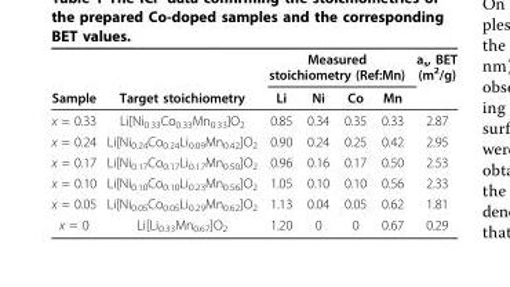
<table><thead><tr><td rowspan="2">Sample</td><td rowspan="2">Target stoichiometry</td><td colspan="4">Measured stoichiometry (Ref:Mn)</td><td rowspan="2">a<sub>s</sub>, BET (m<sup>2</sup>/g)</td></tr><tr><td>Li</td><td>Ni</td><td>Co</td><td>Mn</td></tr></thead><tbody><tr><td>x = 0.33</td><td>Li[Ni<sub>0.33</sub>Co<sub>0.33</sub>Mn<sub>0.33</sub>]O<sub>2</sub></td><td>0.85</td><td>0.34</td><td>0.35</td><td>0.33</td><td>2.87</td></tr><tr><td>x = 0.24</td><td>Li[Ni<sub>0.24</sub>Co<sub>0.24</sub>Li<sub>0.09</sub>Mn<sub>0.42</sub>]O<sub>2</sub></td><td>0.90</td><td>0.24</td><td>0.25</td><td>0.42</td><td>2.95</td></tr><tr><td>x = 0.17</td><td>Li[Ni<sub>0.17</sub>Co<sub>0.17</sub>Li<sub>0.17</sub>Mn<sub>0.50</sub>]O<sub>2</sub></td><td>0.96</td><td>0.16</td><td>0.17</td><td>0.50</td><td>2.53</td></tr><tr><td>x = 0.10</td><td>Li[Ni<sub>0.10</sub>Co<sub>0.10</sub>Li<sub>0.23</sub>Mn<sub>0.56</sub>]O<sub>2</sub></td><td>1.05</td><td>0.10</td><td>0.10</td><td>0.56</td><td>2.33</td></tr><tr><td>x = 0.05</td><td>Li[Ni<sub>0.05</sub>Co<sub>0.05</sub>Li<sub>0.29</sub>Mn<sub>0.62</sub>]O<sub>2</sub></td><td>1.13</td><td>0.04</td><td>0.05</td><td>0.62</td><td>1.81</td></tr><tr><td>x = 0</td><td>Li[Li<sub>0.33</sub>Mn<sub>0.67</sub>]O<sub>2</sub></td><td>1.20</td><td>0</td><td>0</td><td>0.67</td><td>0.29</td></tr></tbody></table>